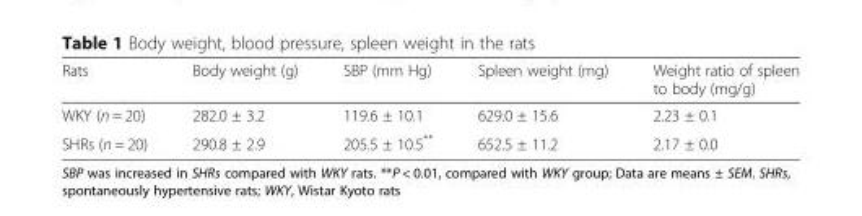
<table><thead><tr><td>Rats</td><td>Body weight (g)</td><td>SBP (mm Hg)</td><td>Spleen weight (mg)</td><td>Weight ratio of spleen to body (mg/g)</td></tr></thead><tbody><tr><td>WKY (n = 20)</td><td>282.0 ± 3.2</td><td>119.6 ± 10.1</td><td>629.0 ± 15.6</td><td>2.23 ± 0.1</td></tr><tr><td>SHRs (n = 20)</td><td>290.8 ± 2.9</td><td>205.5 ± 10.5**</td><td>652.5 ± 11.2</td><td>2.17 ± 0.0</td></tr></tbody></table>